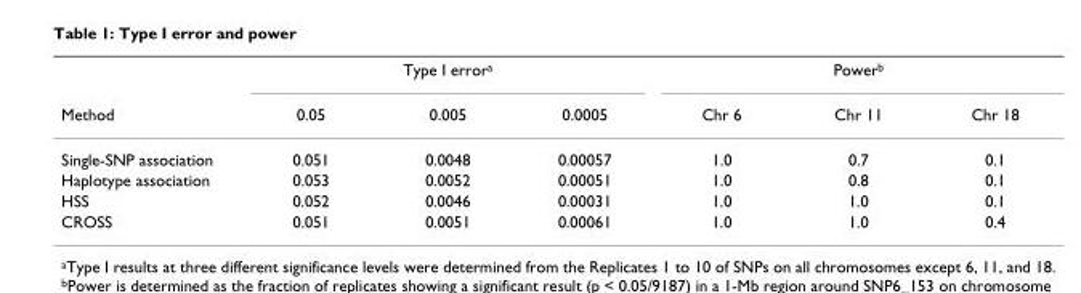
<table><thead><tr><td rowspan="2">Method</td><td colspan="3">Type I error<sup>a</sup></td><td colspan="3">Power<sup>b</sup></td></tr><tr><td>0.05</td><td>0.005</td><td>0.0005</td><td>Chr 6</td><td>Chr 11</td><td>Chr 18</td></tr></thead><tbody><tr><td>Single-SNP association</td><td>0.051</td><td>0.0048</td><td>0.00057</td><td>1.0</td><td>0.7</td><td>0.1</td></tr><tr><td>Haplotype association</td><td>0.053</td><td>0.0052</td><td>0.00051</td><td>1.0</td><td>0.8</td><td>0.1</td></tr><tr><td>HSS</td><td>0.052</td><td>0.0046</td><td>0.00031</td><td>1.0</td><td>1.0</td><td>0.1</td></tr><tr><td>CROSS</td><td>0.051</td><td>0.0051</td><td>0.00061</td><td>1.0</td><td>1.0</td><td>0.4</td></tr></tbody></table>